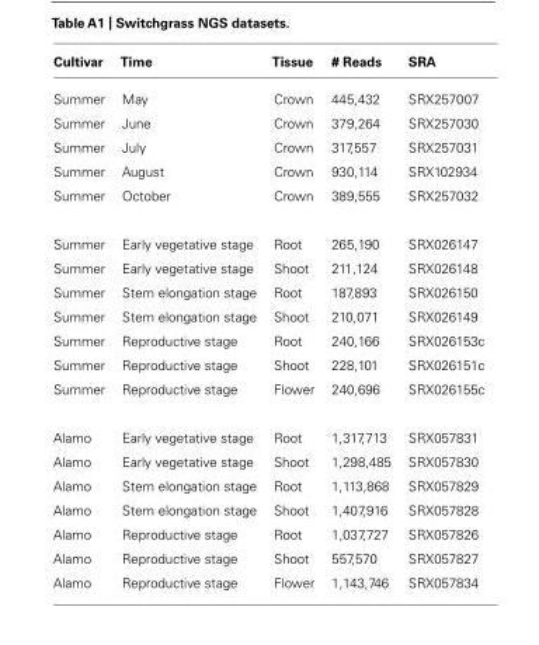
<table><thead><tr><td>Cultivar</td><td>Time</td><td>Tissue</td><td># Reads</td><td>SRA</td></tr></thead><tbody><tr><td>Summer</td><td>May</td><td>Crown</td><td>445,432</td><td>SRX257007</td></tr><tr><td>Summer</td><td>June</td><td>Crown</td><td>379,264</td><td>SRX257030</td></tr><tr><td>Summer</td><td>July</td><td>Crown</td><td>317,557</td><td>SRX257031</td></tr><tr><td>Summer</td><td>August</td><td>Crown</td><td>930,114</td><td>SRX102934</td></tr><tr><td>Summer</td><td>October</td><td>Crown</td><td>389,555</td><td>SRX257032</td></tr><tr><td>Summer</td><td>Early vegetative stage</td><td>Root</td><td>265,190</td><td>SRX026147</td></tr><tr><td>Summer</td><td>Early vegetative stage</td><td>Shoot</td><td>211,124</td><td>SRX026148</td></tr><tr><td>Summer</td><td>Stem elongation stage</td><td>Root</td><td>187,893</td><td>SRX026150</td></tr><tr><td>Summer</td><td>Stem elongation stage</td><td>Shoot</td><td>210,071</td><td>SRX026149</td></tr><tr><td>Summer</td><td>Reproductive stage</td><td>Root</td><td>240,166</td><td>SRX026153c</td></tr><tr><td>Summer</td><td>Reproductive stage</td><td>Shoot</td><td>228,101</td><td>SRX026151c</td></tr><tr><td>Summer</td><td>Reproductive stage</td><td>Flower</td><td>240,696</td><td>SRX026155c</td></tr><tr><td>Alamo</td><td>Early vegetative stage</td><td>Root</td><td>1,317,713</td><td>SRX057831</td></tr><tr><td>Alamo</td><td>Early vegetative stage</td><td>Shoot</td><td>1,298,485</td><td>SRX057830</td></tr><tr><td>Alamo</td><td>Stem elongation stage</td><td>Root</td><td>1,113,868</td><td>SRX057829</td></tr><tr><td>Alamo</td><td>Stem elongation stage</td><td>Shoot</td><td>1,407,916</td><td>SRX057828</td></tr><tr><td>Alamo</td><td>Reproductive stage</td><td>Root</td><td>1,037,727</td><td>SRX057826</td></tr><tr><td>Alamo</td><td>Reproductive stage</td><td>Shoot</td><td>557,570</td><td>SRX057827</td></tr><tr><td>Alamo</td><td>Reproductive stage</td><td>Flower</td><td>1,143,746</td><td>SRX057834</td></tr></tbody></table>